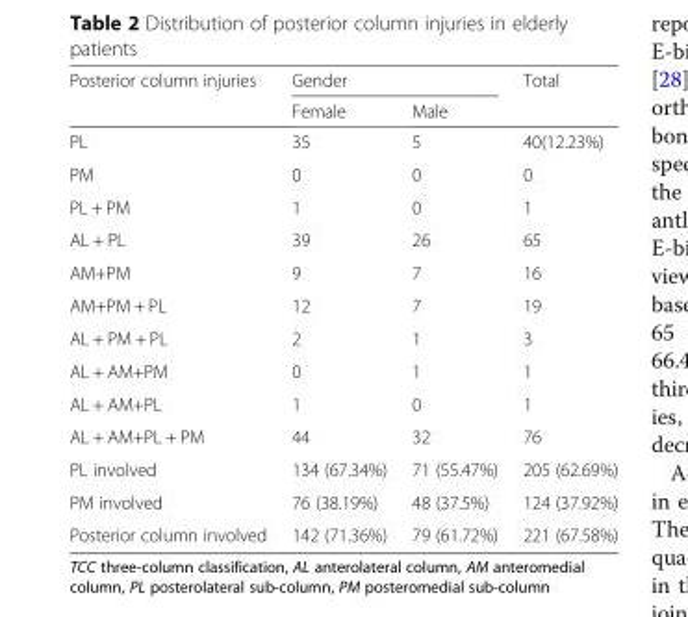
<table><thead><tr><td rowspan="2">Posterior column injuries</td><td colspan="2">Gender</td><td rowspan="2">Total</td></tr><tr><td>Female</td><td>Male</td></tr></thead><tbody><tr><td>PL</td><td>35</td><td>5</td><td>40(12.23%)</td></tr><tr><td>PM</td><td>0</td><td>0</td><td>0</td></tr><tr><td>PL + PM</td><td>1</td><td>0</td><td>1</td></tr><tr><td>AL + PL</td><td>39</td><td>26</td><td>65</td></tr><tr><td>AM+PM</td><td>9</td><td>7</td><td>16</td></tr><tr><td>AM+PM + PL</td><td>12</td><td>7</td><td>19</td></tr><tr><td>AL + PM + PL</td><td>2</td><td>1</td><td>3</td></tr><tr><td>AL + AM+PM</td><td>0</td><td>1</td><td>1</td></tr><tr><td>AL + AM+PL</td><td>1</td><td>0</td><td>1</td></tr><tr><td>AL + AM+PL + PM</td><td>44</td><td>32</td><td>76</td></tr><tr><td>PL involved</td><td>134 (67.34%)</td><td>71 (55.47%)</td><td>205 (62.69%)</td></tr><tr><td>PM involved</td><td>76 (38.19%)</td><td>48 (37.5%)</td><td>124 (37.92%)</td></tr><tr><td>Posterior column involved</td><td>142 (71.36%)</td><td>79 (61.72%)</td><td>221 (67.58%)</td></tr></tbody></table>